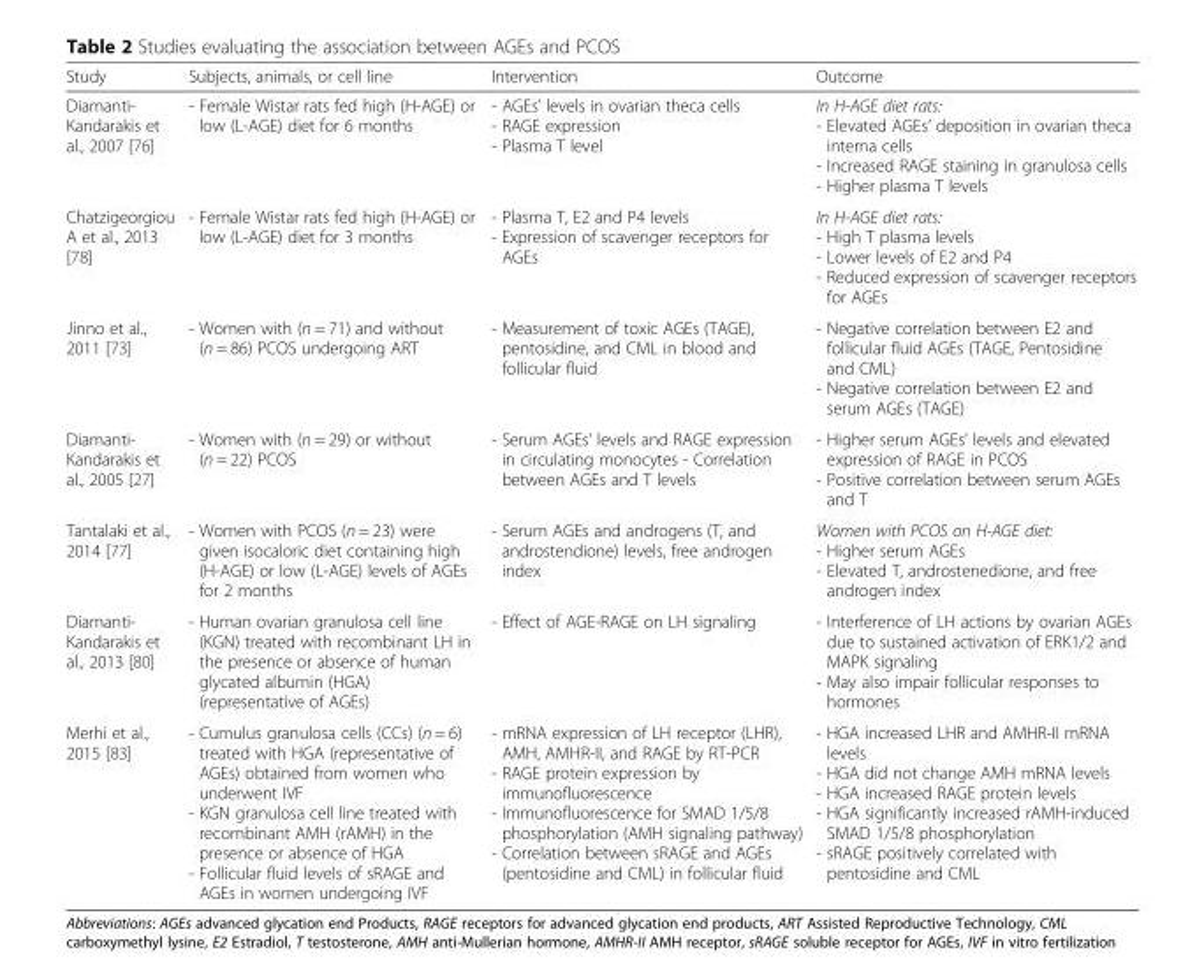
<table><thead><tr><td>Study</td><td>Subjects, animals, or cell line</td><td>Intervention</td><td>Outcome</td></tr></thead><tbody><tr><td>Diamanti- Kandarakis et al., 2007 [76]</td><td>- Female Wistar rats fed high (H-AGE) or low (L-AGE) diet for 6 months</td><td>- AGEs’ levels in ovarian theca cells - RAGE expression - Plasma T level</td><td>In H-AGE diet rats: - Elevated AGEs’ deposition in ovarian theca interna cells - Increased RAGE staining in granulosa cells - Higher plasma T levels</td></tr><tr><td>Chatzigeorgiou A et al., 2013 [78]</td><td>- Female Wistar rats fed high (H-AGE) or low (L-AGE) diet for 3 months</td><td>- Plasma T, E2 and P4 levels - Expression of scavenger receptors for AGEs</td><td>In H-AGE diet rats: - High T plasma levels - Lower levels of E2 and P4 - Reduced expression of scavenger receptors for AGEs</td></tr><tr><td>Jinno et al., 2011 [73]</td><td>- Women with (n = 71) and without (n = 86) PCOS undergoing ART</td><td>- Measurement of toxic AGEs (TAGE), pentosidine, and CML in blood and follicular fluid</td><td>- Negative correlation between E2 and follicular fluid AGEs (TAGE, Pentosidine and CML) - Negative correlation between E2 and serum AGEs (TAGE)</td></tr><tr><td>Diamanti- Kandarakis et al., 2005 [27]</td><td>- Women with (n = 29) or without (n = 22) PCOS</td><td>- Serum AGEs’ levels and RAGE expression in circulating monocytes - Correlation between AGEs and T levels</td><td>- Higher serum AGEs’ levels and elevated expression of RAGE in PCOS - Positive correlation between serum AGEs and T</td></tr><tr><td>Tantalaki et al., 2014 [77]</td><td>- Women with PCOS (n = 23) were given isocaloric diet containing high (H-AGE) or low (L-AGE) levels of AGEs for 2 months</td><td>- Serum AGEs and androgens (T, and androstendione) levels, free androgen index</td><td>Women with PCOS on H-AGE diet: - Higher serum AGEs - Elevated T, androstenedione, and free androgen index</td></tr><tr><td>Diamanti- Kandarakis et al., 2013 [80]</td><td>- Human ovarian granulosa cell line (KGN) treated with recombinant LH in the presence or absence of human glycated albumin (HGA) (representative of AGEs)</td><td>- Effect of AGE-RAGE on LH signaling</td><td>- Interference of LH actions by ovarian AGEs due to sustained activation of ERK1/2 and MAPK signaling - May also impair follicular responses to hormones</td></tr><tr><td>Merhi et al., 2015 [83]</td><td>- Cumulus granulosa cells (CCs) (n = 6) treated with HGA (representative of AGEs) obtained from women who underwent IVF - KGN granulosa cell line treated with recombinant AMH (rAMH) in the presence or absence of HGA - Follicular fluid levels of sRAGE and AGEs in women undergoing IVF</td><td>- mRNA expression of LH receptor (LHR), AMH, AMHR-II, and RAGE by RT-PCR - RAGE protein expression by immunofluorescence - Immunofluorescence for SMAD 1/5/8 phosphorylation (AMH signaling pathway) - Correlation between sRAGE and AGEs (pentosidine and CML) in follicular fluid</td><td>- HGA increased LHR and AMHR-II mRNA levels - HGA did not change AMH mRNA levels - HGA increased RAGE protein levels - HGA significantly increased rAMH-induced SMAD 1/5/8 phosphorylation - sRAGE positively correlated with pentosidine and CML</td></tr></tbody></table>